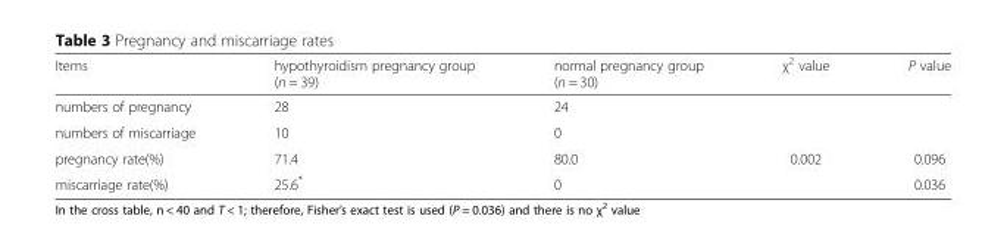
<table><thead><tr><td>Items</td><td>hypothyroidism pregnancy group (n = 39)</td><td>normal pregnancy group (n = 30)</td><td>χ<sup>2</sup> value</td><td>P value</td></tr></thead><tbody><tr><td>numbers of pregnancy</td><td>28</td><td>24</td><td></td><td></td></tr><tr><td>numbers of miscarriage</td><td>10</td><td>0</td><td></td><td></td></tr><tr><td>pregnancy rate(%)</td><td>71.4</td><td>80.0</td><td>0.002</td><td>0.096</td></tr><tr><td>miscarriage rate(%)</td><td>25.6*</td><td>0</td><td></td><td>0.036</td></tr></tbody></table>